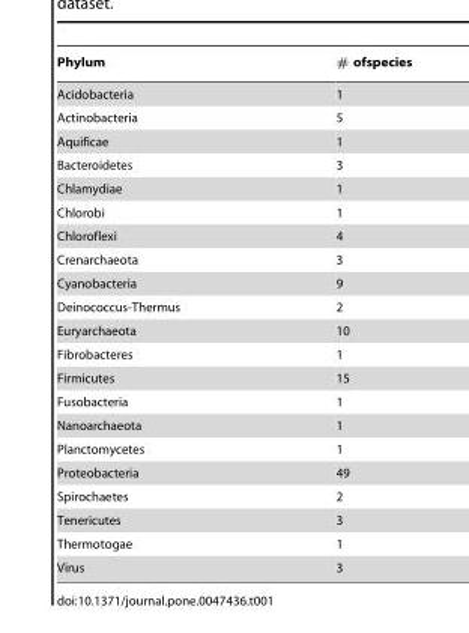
<table><thead><tr><td>Phylum</td><td># ofspecies</td></tr></thead><tbody><tr><td>Acidobacteria</td><td>1</td></tr><tr><td>Actinobacteria</td><td>5</td></tr><tr><td>Aquificae</td><td>1</td></tr><tr><td>Bacteroidetes</td><td>3</td></tr><tr><td>Chlamydiae</td><td>1</td></tr><tr><td>Chlorobi</td><td>1</td></tr><tr><td>Chloroflexi</td><td>4</td></tr><tr><td>Crenarchaeota</td><td>3</td></tr><tr><td>Cyanobacteria</td><td>9</td></tr><tr><td>Deinococcus-Thermus</td><td>2</td></tr><tr><td>Euryarchaeota</td><td>10</td></tr><tr><td>Fibrobacteres</td><td>1</td></tr><tr><td>Firmicutes</td><td>15</td></tr><tr><td>Fusobacteria</td><td>1</td></tr><tr><td>Nanoarchaeota</td><td>1</td></tr><tr><td>Planctomycetes</td><td>1</td></tr><tr><td>Proteobacteria</td><td>49</td></tr><tr><td>Spirochaetes</td><td>2</td></tr><tr><td>Tenericutes</td><td>3</td></tr><tr><td>Thermotogae</td><td>1</td></tr><tr><td>Virus</td><td>3</td></tr></tbody></table>